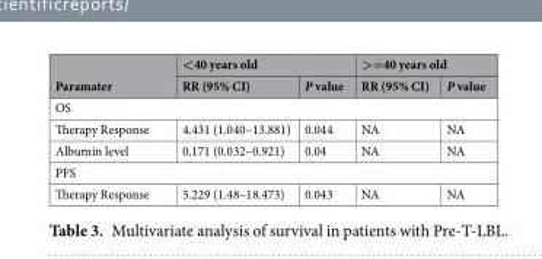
<table><thead><tr><td rowspan="2">Paramater</td><td colspan="2">&lt;40 years old</td><td colspan="2">&gt;=40 years old</td></tr><tr><td>RR (95% CI)</td><td>P value</td><td>RR (95% CI)</td><td>P value</td></tr></thead><tbody><tr><td colspan="5">OS</td></tr><tr><td>Therapy Response</td><td>4.431 (1.040–13.881)</td><td>0.044</td><td>NA</td><td>NA</td></tr><tr><td>Albumin level</td><td>0.171 (0.032–0.921)</td><td>0.04</td><td>NA</td><td>NA</td></tr><tr><td colspan="5">PFS</td></tr><tr><td>Therapy Response</td><td>5.229 (1.48–18.473)</td><td>0.043</td><td>NA</td><td>NA</td></tr></tbody></table>